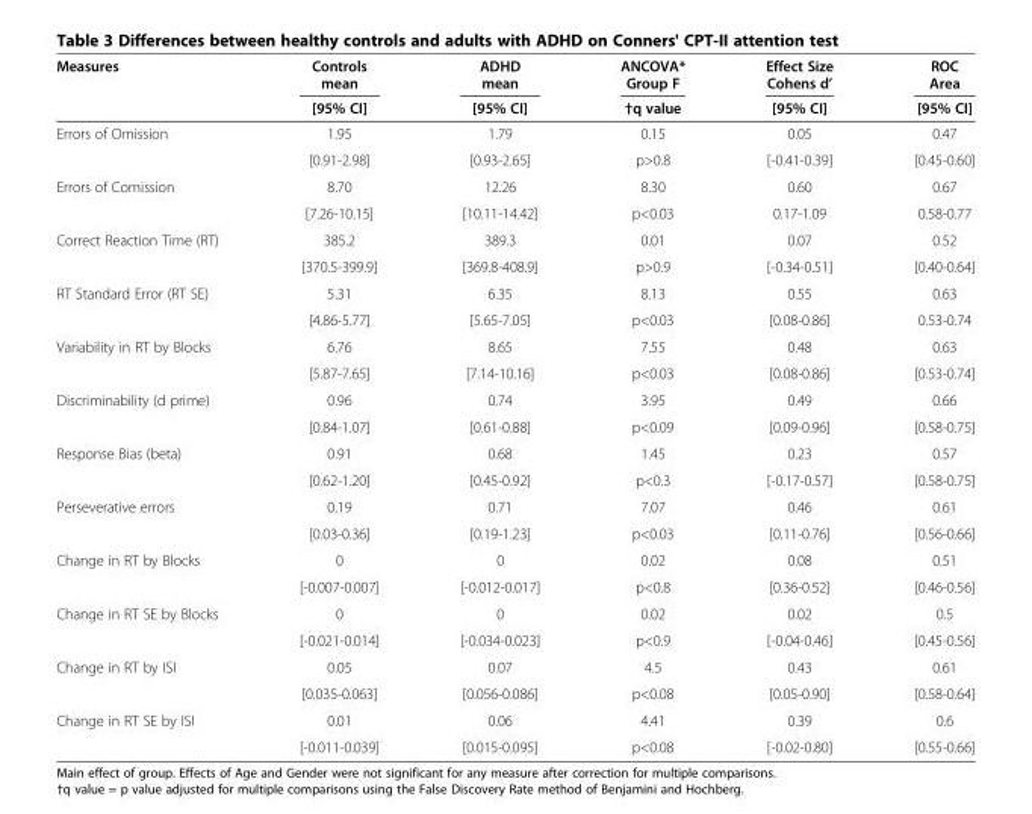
<table><thead><tr><td rowspan="2">Measures</td><td rowspan="2">Controls mean [95% CI]</td><td rowspan="2">ADHD mean [95% CI]</td><td rowspan="2">ANCOVA* Group F †q value</td><td rowspan="2">Effect Size Cohens d’ [95% CI]</td><td rowspan="2">ROC Area [95% CI]</td></tr><tr></tr></thead><tbody><tr><td rowspan="2">Errors of Omission</td><td>1.95</td><td>1.79</td><td>0.15</td><td>0.05</td><td>0.47</td></tr><tr><td>[0.91-2.98]</td><td>[0.93-2.65]</td><td>p&gt;0.8</td><td>[-0.41-0.39]</td><td>[0.45-0.60]</td></tr><tr><td rowspan="2">Errors of Comission</td><td>8.70</td><td>12.26</td><td>8.30</td><td>0.60</td><td>0.67</td></tr><tr><td>[7.26-10.15]</td><td>[10.11-14.42]</td><td>p&lt;0.03</td><td>0.17-1.09</td><td>0.58-0.77</td></tr><tr><td rowspan="2">Correct Reaction Time (RT)</td><td>385.2</td><td>389.3</td><td>0.01</td><td>0.07</td><td>0.52</td></tr><tr><td>[370.5-399.9]</td><td>[369.8-408.9]</td><td>p&gt;0.9</td><td>[-0.34-0.51]</td><td>[0.40-0.64]</td></tr><tr><td rowspan="2">RT Standard Error (RT SE)</td><td>5.31</td><td>6.35</td><td>8.13</td><td>0.55</td><td>0.63</td></tr><tr><td>[4.86-5.77]</td><td>[5.65-7.05]</td><td>p&lt;0.03</td><td>[0.08-0.86]</td><td>0.53-0.74</td></tr><tr><td rowspan="2">Variability in RT by Blocks</td><td>6.76</td><td>8.65</td><td>7.55</td><td>0.48</td><td>0.63</td></tr><tr><td>[5.87-7.65]</td><td>[7.14-10.16]</td><td>p&lt;0.03</td><td>[0.08-0.86]</td><td>[0.53-0.74]</td></tr><tr><td rowspan="2">Discriminability (d prime)</td><td>0.96</td><td>0.74</td><td>3.95</td><td>0.49</td><td>0.66</td></tr><tr><td>[0.84-1.07]</td><td>[0.61-0.88]</td><td>p&lt;0.09</td><td>[0.09-0.96]</td><td>[0.58-0.75]</td></tr><tr><td rowspan="2">Response Bias (beta)</td><td>0.91</td><td>0.68</td><td>1.45</td><td>0.23</td><td>0.57</td></tr><tr><td>[0.62-1.20]</td><td>[0.45-0.92]</td><td>p&lt;0.3</td><td>[-0.17-0.57]</td><td>[0.58-0.75]</td></tr><tr><td rowspan="2">Perseverative errors</td><td>0.19</td><td>0.71</td><td>7.07</td><td>0.46</td><td>0.61</td></tr><tr><td>[0.03-0.36]</td><td>[0.19-1.23]</td><td>p&lt;0.03</td><td>[0.11-0.76]</td><td>[0.56-0.66]</td></tr><tr><td rowspan="2">Change in RT by Blocks</td><td>0</td><td>0</td><td>0.02</td><td>0.08</td><td>0.51</td></tr><tr><td>[-0.007-0.007]</td><td>[-0.012-0.017]</td><td>p&lt;0.8</td><td>[0.36-0.52]</td><td>[0.46-0.56]</td></tr><tr><td rowspan="2">Change in RT SE by Blocks</td><td>0</td><td>0</td><td>0.02</td><td>0.02</td><td>0.5</td></tr><tr><td>[-0.021-0.014]</td><td>[-0.034-0.023]</td><td>p&lt;0.9</td><td>[-0.04-0.46]</td><td>[0.45-0.56]</td></tr><tr><td rowspan="2">Change in RT by ISI</td><td>0.05</td><td>0.07</td><td>4.5</td><td>0.43</td><td>0.61</td></tr><tr><td>[0.035-0.063]</td><td>[0.056-0.086]</td><td>p&lt;0.08</td><td>[0.05-0.90]</td><td>[0.58-0.64]</td></tr><tr><td rowspan="2">Change in RT SE by ISI</td><td>0.01</td><td>0.06</td><td>4.41</td><td>0.39</td><td>0.6</td></tr><tr><td>[-0.011-0.039]</td><td>[0.015-0.095]</td><td>p&lt;0.08</td><td>[-0.02-0.80]</td><td>[0.55-0.66]</td></tr></tbody></table>